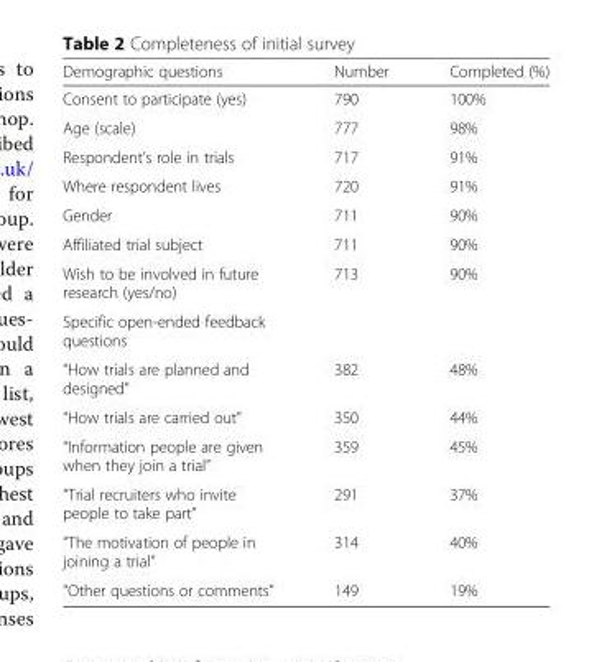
<table><thead><tr><td>Demographic questions</td><td>Number</td><td>Completed (%)</td></tr></thead><tbody><tr><td>Consent to participate (yes)</td><td>790</td><td>100%</td></tr><tr><td>Age (scale)</td><td>777</td><td>98%</td></tr><tr><td>Respondent’s role in trials</td><td>717</td><td>91%</td></tr><tr><td>Where respondent lives</td><td>720</td><td>91%</td></tr><tr><td>Gender</td><td>711</td><td>90%</td></tr><tr><td>Affiliated trial subject</td><td>711</td><td>90%</td></tr><tr><td>Wish to be involved in future research (yes/no)</td><td>713</td><td>90%</td></tr><tr><td colspan="3">Specific open-ended feedback questions</td></tr><tr><td>“How trials are planned and designed”</td><td>382</td><td>48%</td></tr><tr><td>“How trials are carried out”</td><td>350</td><td>44%</td></tr><tr><td>“Information people are given when they join a trial”</td><td>359</td><td>45%</td></tr><tr><td>“Trial recruiters who invite people to take part”</td><td>291</td><td>37%</td></tr><tr><td>“The motivation of people in joining a trial”</td><td>314</td><td>40%</td></tr><tr><td>“Other questions or comments”</td><td>149</td><td>19%</td></tr></tbody></table>